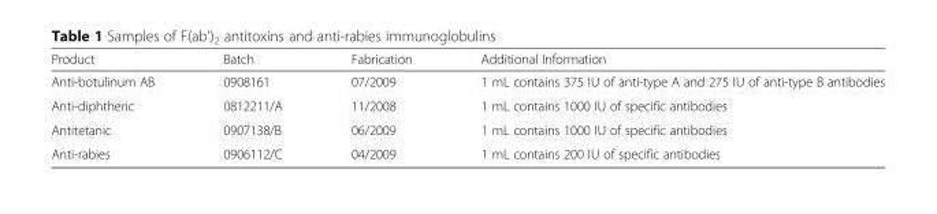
<table><thead><tr><td>Product</td><td>Batch</td><td>Fabrication</td><td>Additional Information</td></tr></thead><tbody><tr><td>Anti-botulinum AB</td><td>0908161</td><td>07/2009</td><td>1 mL contains 375 IU of anti-type A and 275 IU of anti-type B antibodies</td></tr><tr><td>Anti-diphtheric</td><td>0812211/A</td><td>11/2008</td><td>1 mL contains 1000 IU of specific antibodies</td></tr><tr><td>Antitetanic</td><td>0907138/B</td><td>06/2009</td><td>1 mL contains 1000 IU of specific antibodies</td></tr><tr><td>Anti-rabies</td><td>0906112/C</td><td>04/2009</td><td>1 mL contains 200 IU of specific antibodies</td></tr></tbody></table>